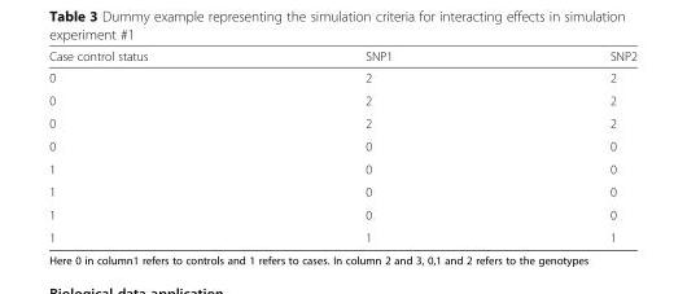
<table><thead><tr><td>Case control status</td><td>SNP1</td><td>SNP2</td></tr></thead><tbody><tr><td>0</td><td>2</td><td>2</td></tr><tr><td>0</td><td>2</td><td>2</td></tr><tr><td>0</td><td>2</td><td>2</td></tr><tr><td>0</td><td>0</td><td>0</td></tr><tr><td>1</td><td>0</td><td>0</td></tr><tr><td>1</td><td>0</td><td>0</td></tr><tr><td>1</td><td>0</td><td>0</td></tr><tr><td>1</td><td>1</td><td>1</td></tr></tbody></table>